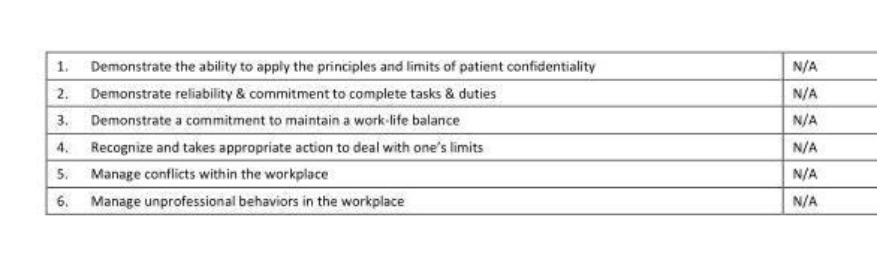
<table><tbody><tr><td>1.</td><td>Demonstrate the ability to apply the principles and limits of patient confidentiality</td><td>N/A</td></tr><tr><td>2.</td><td>Demonstrate reliability &amp; commitment to complete tasks &amp; duties</td><td>N/A</td></tr><tr><td>3.</td><td>Demonstrate a commitment to maintain a work-life balance</td><td>N/A</td></tr><tr><td>4.</td><td>Recognize and takes appropriate action to deal with one’s limits</td><td>N/A</td></tr><tr><td>5.</td><td>Manage conflicts within the workplace</td><td>N/A</td></tr><tr><td>6.</td><td>Manage unprofessional behaviors in the workplace</td><td>N/A</td></tr></tbody></table>